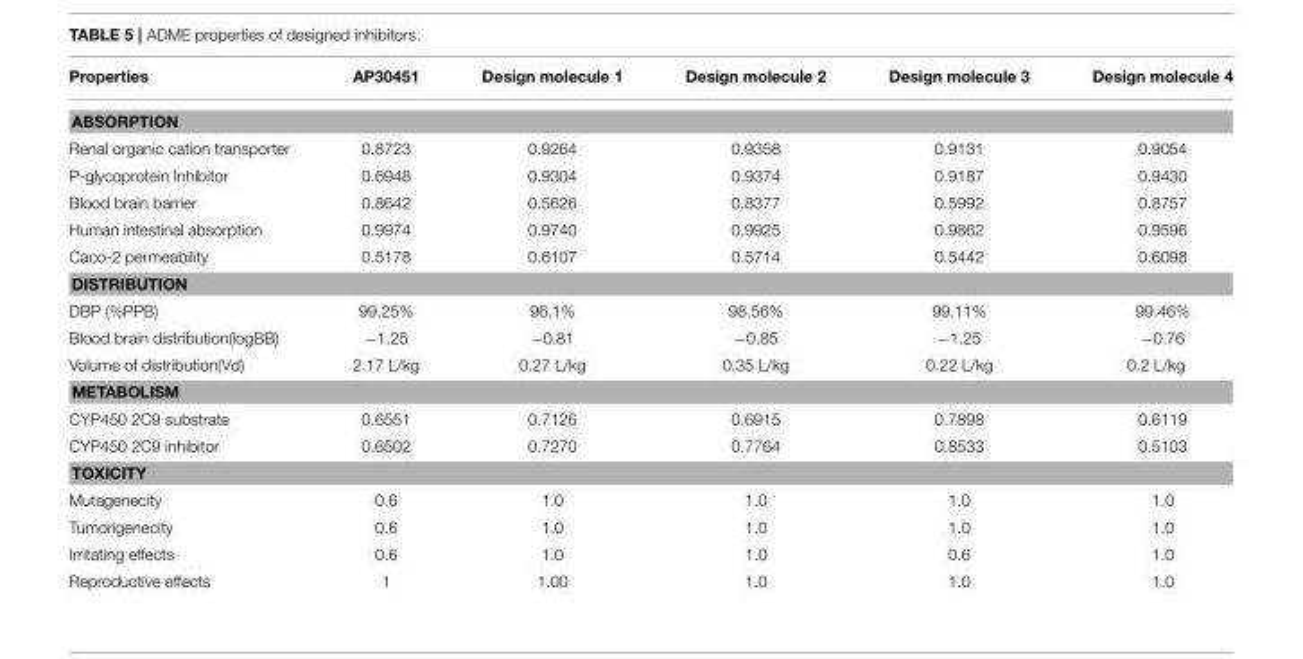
<table><thead><tr><td>Properties</td><td>AP30451</td><td>Design molecule 1</td><td>Design molecule 2</td><td>Design molecule 3</td><td>Design molecule 4</td></tr></thead><tbody><tr><td colspan="6">ABSORPTION</td></tr><tr><td>Renal organic cation transporter</td><td>0.8723</td><td>0.9264</td><td>0.9358</td><td>0.9131</td><td>0.9054</td></tr><tr><td>P-glycoprotein Inhibitor</td><td>0.6948</td><td>0.9304</td><td>0.9374</td><td>0.9187</td><td>0.9430</td></tr><tr><td>Blood brain barrier</td><td>0.8642</td><td>0.5626</td><td>0.8377</td><td>0.5992</td><td>0.8757</td></tr><tr><td>Human intestinal absorption</td><td>0.9974</td><td>0.9740</td><td>0.9925</td><td>0.9862</td><td>0.9596</td></tr><tr><td>Caco-2 permeability</td><td>0.5178</td><td>0.6107</td><td>0.5714</td><td>0.5442</td><td>0.6098</td></tr><tr><td colspan="6">DISTRIBUTION</td></tr><tr><td>DBP (%PPB)</td><td>99.25%</td><td>96.1%</td><td>98.56%</td><td>99.11%</td><td>99.46%</td></tr><tr><td>Blood brain distribution(logBB)</td><td>−1.25</td><td>−0.81</td><td>−0.85</td><td>−1.25</td><td>−0.76</td></tr><tr><td>Volume of distribution(Vd)</td><td>2.17 L/kg</td><td>0.27 L/kg</td><td>0.35 L/kg</td><td>0.22 L/kg</td><td>0.2 L/kg</td></tr><tr><td colspan="6">METABOLISM</td></tr><tr><td>CYP450 2C9 substrate</td><td>0.6551</td><td>0.7126</td><td>0.6915</td><td>0.7898</td><td>0.6119</td></tr><tr><td>CYP450 2C9 inhibitor</td><td>0.6502</td><td>0.7270</td><td>0.7764</td><td>0.8533</td><td>0.5103</td></tr><tr><td colspan="6">TOXICITY</td></tr><tr><td>Mutagenecity</td><td>0.6</td><td>1.0</td><td>1.0</td><td>1.0</td><td>1.0</td></tr><tr><td>Tumorigenecity</td><td>0.6</td><td>1.0</td><td>1.0</td><td>1.0</td><td>1.0</td></tr><tr><td>Irritating effects</td><td>0.6</td><td>1.0</td><td>1.0</td><td>0.6</td><td>1.0</td></tr><tr><td>Reproductive effects</td><td>1</td><td>1.00</td><td>1.0</td><td>1.0</td><td>1.0</td></tr></tbody></table>